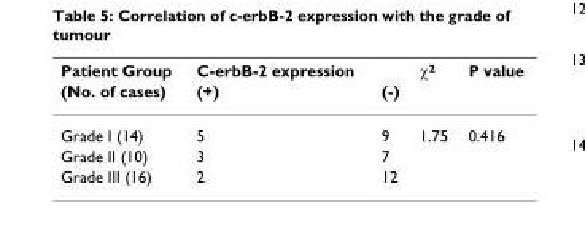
<table><thead><tr><td rowspan="2">Patient Group (No. of cases)</td><td colspan="2">C-erbB-2 expression</td><td rowspan="2">χ2</td><td rowspan="2">P value</td></tr><tr><td>(+)</td><td>(-)</td></tr></thead><tbody><tr><td>Grade I (14)</td><td>5</td><td>9</td><td>1.75</td><td>0.416</td></tr><tr><td>Grade II (10)</td><td>3</td><td>7</td><td></td><td></td></tr><tr><td>Grade III (16)</td><td>2</td><td>12</td><td></td><td></td></tr></tbody></table>